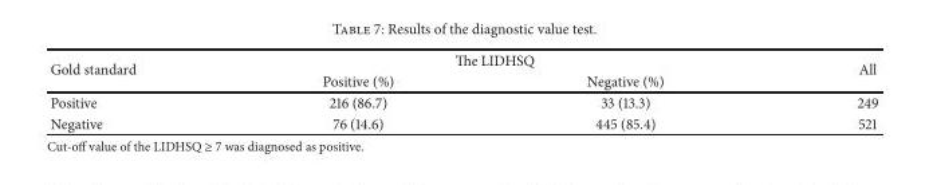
<table><thead><tr><td rowspan="2">Gold standard</td><td colspan="2">The LIDHSQ</td><td rowspan="2">All</td></tr><tr><td>Positive (%)</td><td>Negative (%)</td></tr></thead><tbody><tr><td>Positive</td><td>216 (86.7)</td><td>33 (13.3)</td><td>249</td></tr><tr><td>Negative</td><td>76 (14.6)</td><td>445 (85.4)</td><td>521</td></tr></tbody></table>